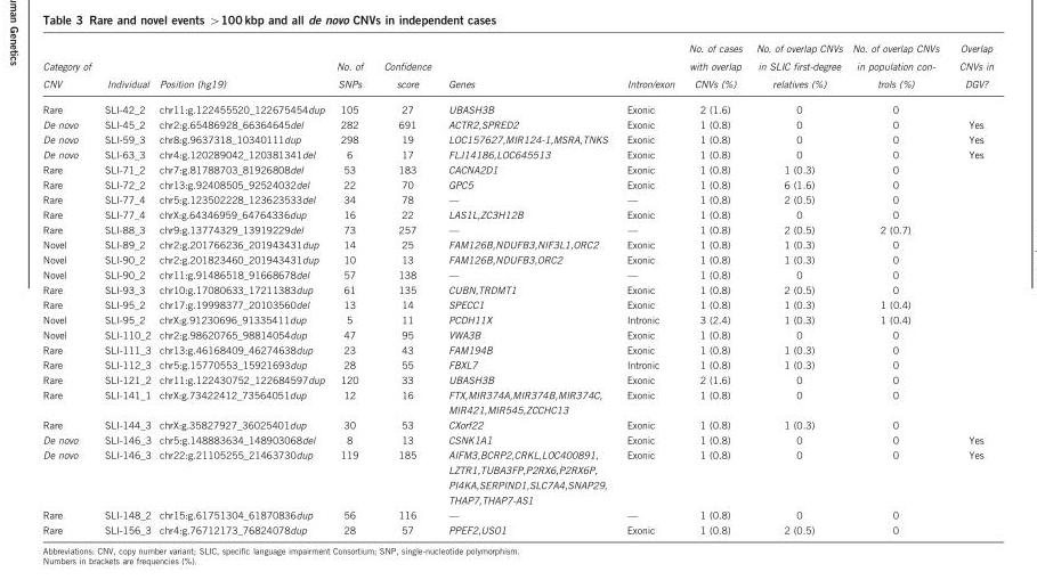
<table><thead><tr><td>Category of CNV</td><td>Individual</td><td>Position (hg19)</td><td>No. of SNPs</td><td>Confidence score</td><td>Genes</td><td>Intron/exon</td><td>No. of cases with overlap CNVs (%)</td><td>No. of overlap CNVs in SLIC first-degree relatives (%)</td><td>No. of overlap CNVs in population con- trols (%)</td><td>Overlap CNVs in DGV?</td></tr></thead><tbody><tr><td>Rare</td><td>SLI-42_2</td><td>chr11:g.122455520_122675454dup</td><td>105</td><td>27</td><td>UBASH3B</td><td>Exonic</td><td>2 (1.6)</td><td>0</td><td>0</td><td></td></tr><tr><td>De novo</td><td>SLI-45_2</td><td>chr2:g.65486928_66364645del</td><td>282</td><td>691</td><td>ACTR2,SPRED2</td><td>Exonic</td><td>1 (0.8)</td><td>0</td><td>0</td><td>Yes</td></tr><tr><td>De novo</td><td>SLI-59_3</td><td>chr8:g.9637318_10340111dup</td><td>298</td><td>19</td><td>LOC157627,MIR124-1,MSRA,TNKS</td><td>Exonic</td><td>1 (0.8)</td><td>0</td><td>0</td><td>Yes</td></tr><tr><td>De novo</td><td>SLI-63_3</td><td>chr4:g.120289042_120381341del</td><td>6</td><td>17</td><td>FLJ14186,LOC645513</td><td>Exonic</td><td>1 (0.8)</td><td>0</td><td>0</td><td>Yes</td></tr><tr><td>Rare</td><td>SLI-71_2</td><td>chr7:g.81788703_81926808del</td><td>53</td><td>183</td><td>CACNA2D1</td><td>Exonic</td><td>1 (0.8)</td><td>1 (0.3)</td><td>0</td><td></td></tr><tr><td>Rare</td><td>SLI-72_2</td><td>chr13:g.92408505_92524032del</td><td>22</td><td>70</td><td>GPC5</td><td>Exonic</td><td>1 (0.8)</td><td>6 (1.6)</td><td>0</td><td></td></tr><tr><td>Rare</td><td>SLI-77_4</td><td>chr5:g.123502228_123623533del</td><td>34</td><td>78</td><td>—</td><td>—</td><td>1 (0.8)</td><td>2 (0.5)</td><td>0</td><td></td></tr><tr><td>Rare</td><td>SLI-77_4</td><td>chrX:g.64346959_64764336dup</td><td>16</td><td>22</td><td>LAS1L,ZC3H12B</td><td>Exonic</td><td>1 (0.8)</td><td>0</td><td>0</td><td></td></tr><tr><td>Rare</td><td>SLI-88_3</td><td>chr9:g.13774329_13919229del</td><td>73</td><td>257</td><td>—</td><td>—</td><td>1 (0.8)</td><td>2 (0.5)</td><td>2 (0.7)</td><td></td></tr><tr><td>Novel</td><td>SLI-89_2</td><td>chr2:g.201766236_201943431dup</td><td>14</td><td>25</td><td>FAM126B,NDUFB3,NIF3L1,ORC2</td><td>Exonic</td><td>1 (0.8)</td><td>1 (0.3)</td><td>0</td><td></td></tr><tr><td>Novel</td><td>SLI-90_2</td><td>chr2:g.201823460_201943431dup</td><td>10</td><td>13</td><td>FAM126B,NDUFB3,ORC2</td><td>Exonic</td><td>1 (0.8)</td><td>1 (0.3)</td><td>0</td><td></td></tr><tr><td>Novel</td><td>SLI-90_2</td><td>chr11:g.91486518_91668678del</td><td>57</td><td>138</td><td>—</td><td>—</td><td>1 (0.8)</td><td>0</td><td>0</td><td></td></tr><tr><td>Rare</td><td>SLI-93_3</td><td>chr10:g.17080633_17211383dup</td><td>61</td><td>135</td><td>CUBN,TRDMT1</td><td>Exonic</td><td>1 (0.8)</td><td>2 (0.5)</td><td>0</td><td></td></tr><tr><td>Rare</td><td>SLI-95_2</td><td>chr17:g.19998377_20103560del</td><td>13</td><td>14</td><td>SPECC1</td><td>Exonic</td><td>1 (0.8)</td><td>1 (0.3)</td><td>1 (0.4)</td><td></td></tr><tr><td>Novel</td><td>SLI-95_2</td><td>chrX:g.91230696_91335411dup</td><td>5</td><td>11</td><td>PCDH11X</td><td>Intronic</td><td>3 (2.4)</td><td>1 (0.3)</td><td>1 (0.4)</td><td></td></tr><tr><td>Novel</td><td>SLI-110_2</td><td>chr2:g.98620765_98814054dup</td><td>47</td><td>95</td><td>VWA3B</td><td>Exonic</td><td>1 (0.8)</td><td>0</td><td>0</td><td></td></tr><tr><td>Rare</td><td>SLI-111_3</td><td>chr13:g.46168409_46274638dup</td><td>23</td><td>43</td><td>FAM194B</td><td>Exonic</td><td>1 (0.8)</td><td>1 (0.3)</td><td>0</td><td></td></tr><tr><td>Rare</td><td>SLI-112_3</td><td>chr5:g.15770553_15921693dup</td><td>28</td><td>55</td><td>FBXL7</td><td>Intronic</td><td>1 (0.8)</td><td>1 (0.3)</td><td>0</td><td></td></tr><tr><td>Rare</td><td>SLI-121_2</td><td>chr11:g.122430752_122684597dup</td><td>120</td><td>33</td><td>UBASH3B</td><td>Exonic</td><td>2 (1.6)</td><td>0</td><td>0</td><td></td></tr><tr><td>Rare</td><td>SLI-141_1</td><td>chrX:g.73422412_73564051dup</td><td>12</td><td>16</td><td>FTX,MIR374A,MIR374B,MIR374C, MIR421,MIR545,ZCCHC13</td><td>Exonic</td><td>1 (0.8)</td><td>0</td><td>0</td><td></td></tr><tr><td>Rare</td><td>SLI-144_3</td><td>chrX:g.35827927_36025401dup</td><td>30</td><td>53</td><td>CXorf22</td><td>Exonic</td><td>1 (0.8)</td><td>1 (0.3)</td><td>0</td><td></td></tr><tr><td>De novo</td><td>SLI-146_3</td><td>chr5:g.148883634_148903068del</td><td>8</td><td>13</td><td>CSNK1A1</td><td>Exonic</td><td>1 (0.8)</td><td>0</td><td>0</td><td>Yes</td></tr><tr><td>De novo</td><td>SLI-146_3</td><td>chr22:g.21105255_21463730dup</td><td>119</td><td>185</td><td>AIFM3,BCRP2,CRKL,LOC400891, LZTR1,TUBA3FP,P2RX6,P2RX6P, PI4KA,SERPIND1,SLC7A4,SNAP29, THAP7,THAP7-AS1</td><td>Exonic</td><td>1 (0.8)</td><td>0</td><td>0</td><td>Yes</td></tr><tr><td>Rare</td><td>SLI-148_2</td><td>chr15:g.61751304_61870836dup</td><td>56</td><td>116</td><td>—</td><td>—</td><td>1 (0.8)</td><td>0</td><td>0</td><td></td></tr><tr><td>Rare</td><td>SLI-156_3</td><td>chr4:g.76712173_76824078dup</td><td>28</td><td>57</td><td>PPEF2,USO1</td><td>Exonic</td><td>1 (0.8)</td><td>2 (0.5)</td><td>0</td><td></td></tr></tbody></table>